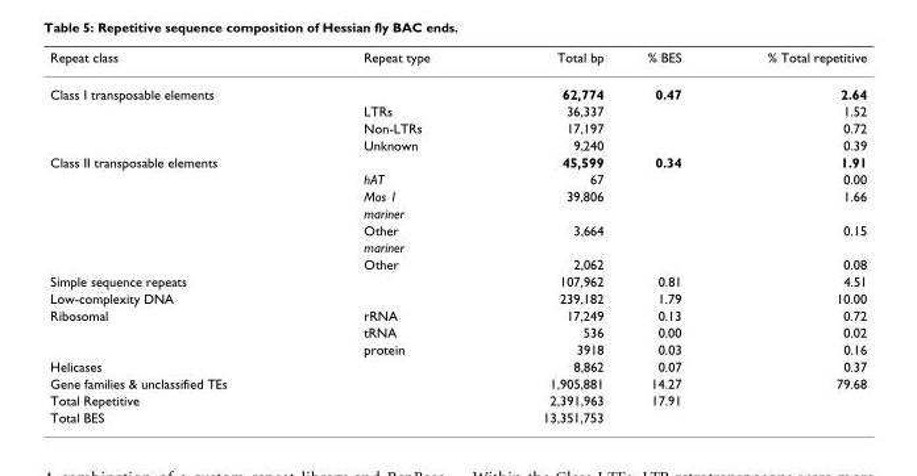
<table><thead><tr><td>Repeat class</td><td>Repeat type</td><td>Total bp</td><td>% BES</td><td>% Total repetitive</td></tr></thead><tbody><tr><td rowspan="4">Class I transposable elements</td><td></td><td>62,774</td><td>0.47</td><td>2.64</td></tr><tr><td>LTRs</td><td>36,337</td><td></td><td>1.52</td></tr><tr><td>Non-LTRs</td><td>17,197</td><td></td><td>0.72</td></tr><tr><td>Unknown</td><td>9,240</td><td></td><td>0.39</td></tr><tr><td rowspan="7">Class II transposable elements</td><td></td><td>45,599</td><td>0.34</td><td>1.91</td></tr><tr><td>hAT</td><td>67</td><td></td><td>0.00</td></tr><tr><td>Mos 1</td><td>39,806</td><td></td><td>1.66</td></tr><tr><td>mariner</td><td></td><td></td><td></td></tr><tr><td>Other</td><td>3,664</td><td></td><td>0.15</td></tr><tr><td>mariner</td><td></td><td></td><td></td></tr><tr><td>Other</td><td>2,062</td><td></td><td>0.08</td></tr><tr><td>Simple sequence repeats</td><td></td><td>107,962</td><td>0.81</td><td>4.51</td></tr><tr><td>Low-complexity DNA</td><td></td><td>239,182</td><td>1.79</td><td>10.00</td></tr><tr><td rowspan="3">Ribosomal</td><td>rRNA</td><td>17,249</td><td>0.13</td><td>0.72</td></tr><tr><td>tRNA</td><td>536</td><td>0.00</td><td>0.02</td></tr><tr><td>protein</td><td>3918</td><td>0.03</td><td>0.16</td></tr><tr><td>Helicases</td><td></td><td>8,862</td><td>0.07</td><td>0.37</td></tr><tr><td>Gene families &amp; unclassified TEs</td><td></td><td>1,905,881</td><td>14.27</td><td>79.68</td></tr><tr><td>Total Repetitive</td><td></td><td>2,391,963</td><td>17.91</td><td></td></tr><tr><td>Total BES</td><td></td><td>13,351,753</td><td></td><td></td></tr></tbody></table>